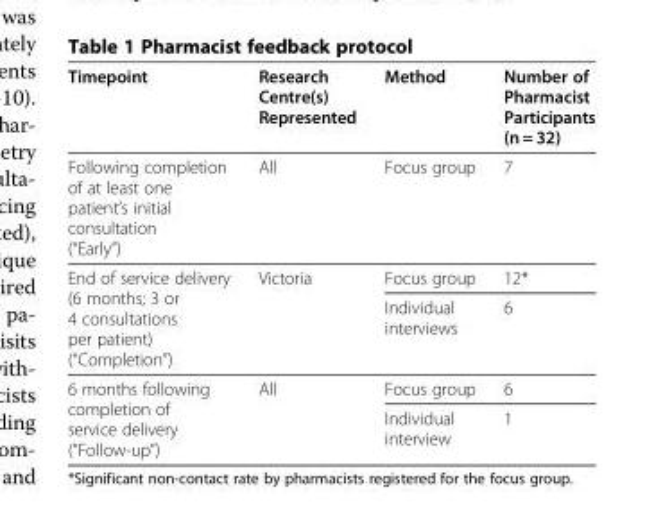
<table><thead><tr><td>Timepoint</td><td>Research Centre(s) Represented</td><td>Method</td><td>Number of Pharmacist Participants (n = 32)</td></tr></thead><tbody><tr><td>Following completion of at least one patient’s initial consultation (“Early”)</td><td>All</td><td>Focus group</td><td>7</td></tr><tr><td rowspan="2">End of service delivery (6 months; 3 or 4 consultations per patient) (“Completion”)</td><td rowspan="2">Victoria</td><td>Focus group</td><td>12*</td></tr><tr><td>Individual interviews</td><td>6</td></tr><tr><td rowspan="2">6 months following completion of service delivery (“Follow-up”)</td><td rowspan="2">All</td><td>Focus group</td><td>6</td></tr><tr><td>Individual interview</td><td>1</td></tr></tbody></table>